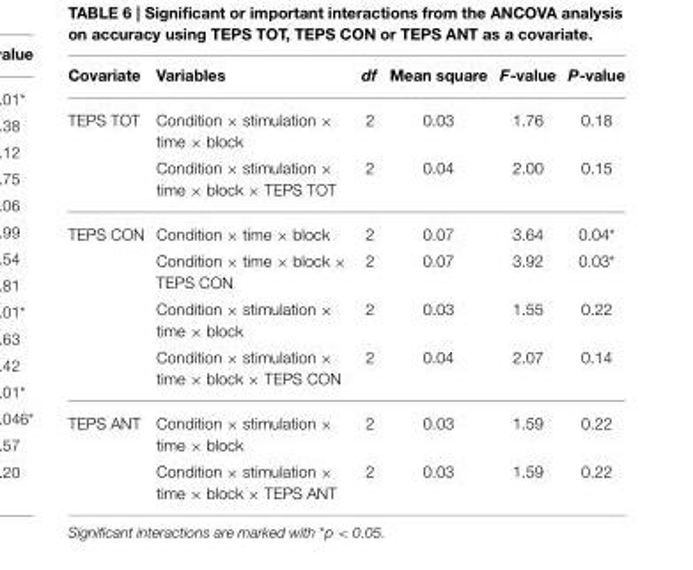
<table><thead><tr><td>Covariate</td><td>Variables</td><td>df</td><td>Mean square</td><td>F-value</td><td>P-value</td></tr></thead><tbody><tr><td rowspan="2">TEPS TOT</td><td>Condition × stimulation × time × block</td><td>2</td><td>0.03</td><td>1.76</td><td>0.18</td></tr><tr><td>Condition × stimulation × time × block × TEPS TOT</td><td>2</td><td>0.04</td><td>2.00</td><td>0.15</td></tr><tr><td rowspan="4">TEPS CON</td><td>Condition × time × block</td><td>2</td><td>0.07</td><td>3.64</td><td>0.04*</td></tr><tr><td>Condition × time × block × TEPS CON</td><td>2</td><td>0.07</td><td>3.92</td><td>0.03*</td></tr><tr><td>Condition × stimulation × time × block</td><td>2</td><td>0.03</td><td>1.55</td><td>0.22</td></tr><tr><td>Condition × stimulation × time × block × TEPS CON</td><td>2</td><td>0.04</td><td>2.07</td><td>0.14</td></tr><tr><td rowspan="2">TEPS ANT</td><td>Condition × stimulation × time × block</td><td>2</td><td>0.03</td><td>1.59</td><td>0.22</td></tr><tr><td>Condition × stimulation × time × block × TEPS ANT</td><td>2</td><td>0.03</td><td>1.59</td><td>0.22</td></tr></tbody></table>